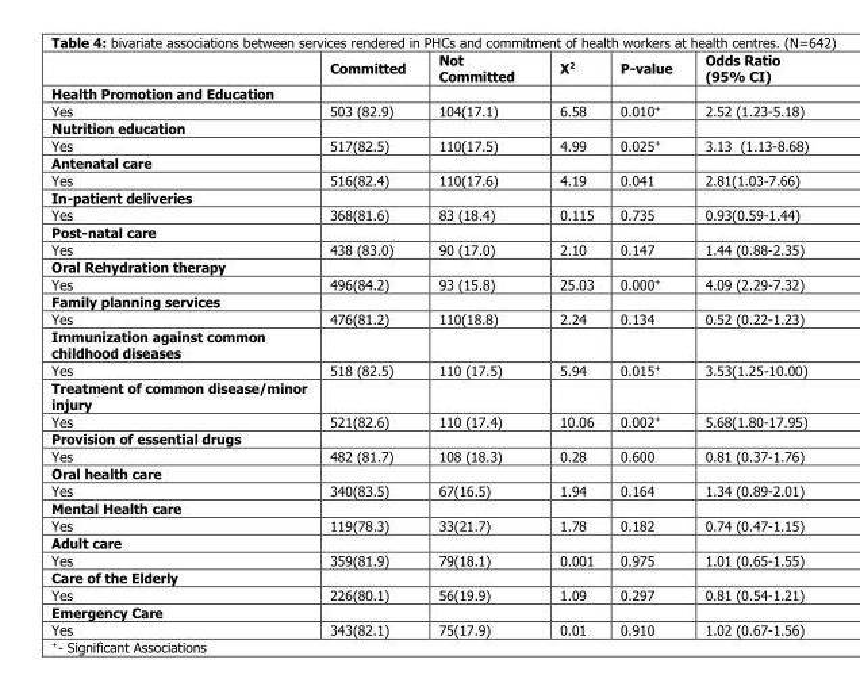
<table><thead><tr><td></td><td>Committed</td><td>Not Committed</td><td>X<sup>2</sup></td><td>P-value</td><td>Odds Ratio (95% CI)</td></tr></thead><tbody><tr><td colspan="6">Health Promotion and Education</td></tr><tr><td>Yes</td><td>503 (82.9)</td><td>104(17.1)</td><td>6.58</td><td>0.010+</td><td>2.52 (1.23-5.18)</td></tr><tr><td colspan="6">Nutrition education</td></tr><tr><td>Yes</td><td>517(82.5)</td><td>110(17.5)</td><td>4.99</td><td>0.025+</td><td>3.13 (1.13-8.68)</td></tr><tr><td colspan="6">Antenatal care</td></tr><tr><td>Yes</td><td>516(82.4)</td><td>110(17.6)</td><td>4.19</td><td>0.041</td><td>2.81(1.03-7.66)</td></tr><tr><td colspan="6">In-patient deliveries</td></tr><tr><td>Yes</td><td>368(81.6)</td><td>83 (18.4)</td><td>0.115</td><td>0.735</td><td>0.93(0.59-1.44)</td></tr><tr><td colspan="6">Post-natal care</td></tr><tr><td>Yes</td><td>438 (83.0)</td><td>90 (17.0)</td><td>2.10</td><td>0.147</td><td>1.44 (0.88-2.35)</td></tr><tr><td colspan="6">Oral Rehydration therapy</td></tr><tr><td>Yes</td><td>496(84.2)</td><td>93 (15.8)</td><td>25.03</td><td>0.000+</td><td>4.09 (2.29-7.32)</td></tr><tr><td colspan="6">Family planning services</td></tr><tr><td>Yes</td><td>476(81.2)</td><td>110(18.8)</td><td>2.24</td><td>0.134</td><td>0.52 (0.22-1.23)</td></tr><tr><td colspan="6">Immunization against common childhood diseases</td></tr><tr><td>Yes</td><td>518 (82.5)</td><td>110 (17.5)</td><td>5.94</td><td>0.015+</td><td>3.53(1.25-10.00)</td></tr><tr><td colspan="6">Treatment of common disease/minor injury</td></tr><tr><td>Yes</td><td>521(82.6)</td><td>110 (17.4)</td><td>10.06</td><td>0.002+</td><td>5.68(1.80-17.95)</td></tr><tr><td colspan="6">Provision of essential drugs</td></tr><tr><td>Yes</td><td>482 (81.7)</td><td>108 (18.3)</td><td>0.28</td><td>0.600</td><td>0.81 (0.37-1.76)</td></tr><tr><td colspan="6">Oral health care</td></tr><tr><td>Yes</td><td>340(83.5)</td><td>67(16.5)</td><td>1.94</td><td>0.164</td><td>1.34 (0.89-2.01)</td></tr><tr><td colspan="6">Mental Health care</td></tr><tr><td>Yes</td><td>119(78.3)</td><td>33(21.7)</td><td>1.78</td><td>0.182</td><td>0.74 (0.47-1.15)</td></tr><tr><td colspan="6">Adult care</td></tr><tr><td>Yes</td><td>359(81.9)</td><td>79(18.1)</td><td>0.001</td><td>0.975</td><td>1.01 (0.65-1.55)</td></tr><tr><td colspan="6">Care of the Elderly</td></tr><tr><td>Yes</td><td>226(80.1)</td><td>56(19.9)</td><td>1.09</td><td>0.297</td><td>0.81 (0.54-1.21)</td></tr><tr><td colspan="6">Emergency Care</td></tr><tr><td>Yes</td><td>343(82.1)</td><td>75(17.9)</td><td>0.01</td><td>0.910</td><td>1.02 (0.67-1.56)</td></tr></tbody></table>